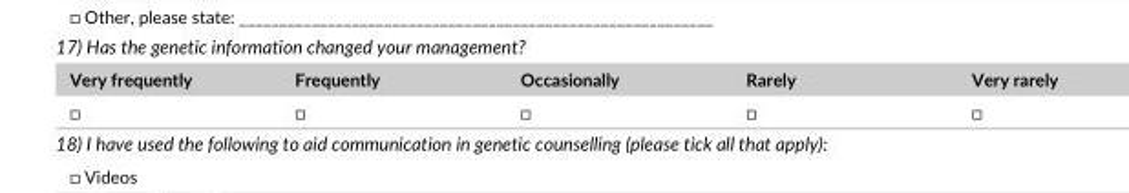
<table><thead><tr><td>Very frequently</td><td>Frequently</td><td>Occasionally</td><td>Rarely</td><td>Very rarely</td></tr></thead><tbody><tr><td>□</td><td>□</td><td>□</td><td>□</td><td>□</td></tr></tbody></table>